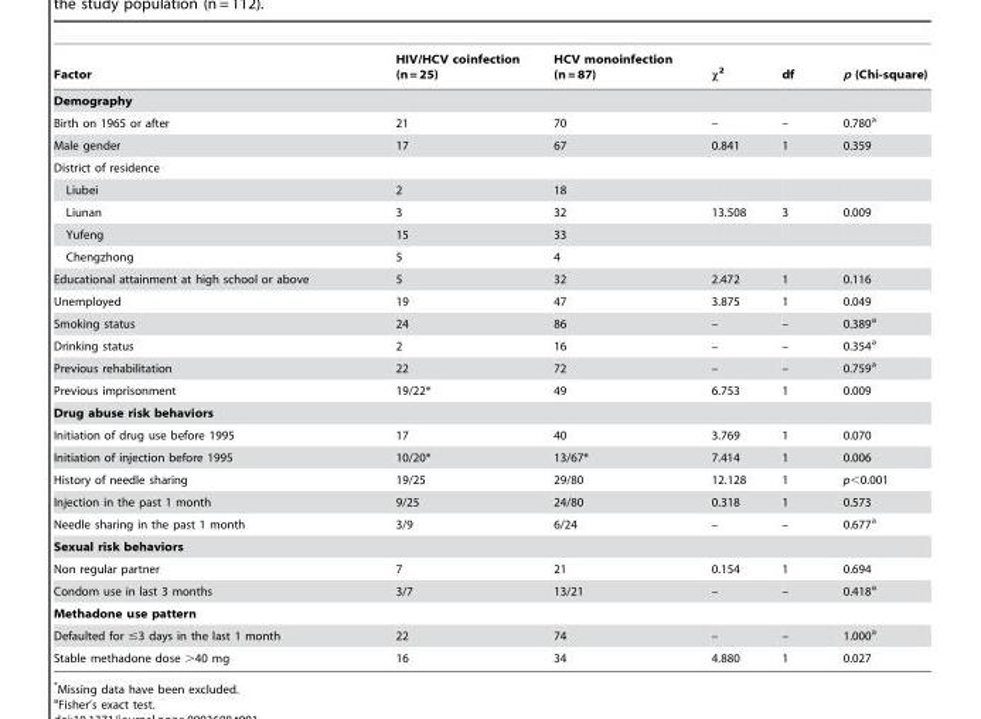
<table><thead><tr><td>Factor</td><td>HIV/HCV coinfection (n = 25)</td><td>HCV monoinfection (n = 87)</td><td>χ<sup>2</sup></td><td>df</td><td>p (Chi-square)</td></tr></thead><tbody><tr><td colspan="6">Demography</td></tr><tr><td>Birth on 1965 or after</td><td>21</td><td>70</td><td>–</td><td>–</td><td>0.780<sup>a</sup></td></tr><tr><td>Male gender</td><td>17</td><td>67</td><td>0.841</td><td>1</td><td>0.359</td></tr><tr><td colspan="6">District of residence</td></tr><tr><td>Liubei</td><td>2</td><td>18</td><td></td><td></td><td></td></tr><tr><td>Liunan</td><td>3</td><td>32</td><td>13.508</td><td>3</td><td>0.009</td></tr><tr><td>Yufeng</td><td>15</td><td>33</td><td></td><td></td><td></td></tr><tr><td>Chengzhong</td><td>5</td><td>4</td><td></td><td></td><td></td></tr><tr><td>Educational attainment at high school or above</td><td>5</td><td>32</td><td>2.472</td><td>1</td><td>0.116</td></tr><tr><td>Unemployed</td><td>19</td><td>47</td><td>3.875</td><td>1</td><td>0.049</td></tr><tr><td>Smoking status</td><td>24</td><td>86</td><td>–</td><td>–</td><td>0.389<sup>a</sup></td></tr><tr><td>Drinking status</td><td>2</td><td>16</td><td>–</td><td>–</td><td>0.354<sup>a</sup></td></tr><tr><td>Previous rehabilitation</td><td>22</td><td>72</td><td>–</td><td>–</td><td>0.759<sup>a</sup></td></tr><tr><td>Previous imprisonment</td><td>19/22*</td><td>49</td><td>6.753</td><td>1</td><td>0.009</td></tr><tr><td colspan="6">Drug abuse risk behaviors</td></tr><tr><td>Initiation of drug use before 1995</td><td>17</td><td>40</td><td>3.769</td><td>1</td><td>0.070</td></tr><tr><td>Initiation of injection before 1995</td><td>10/20*</td><td>13/67*</td><td>7.414</td><td>1</td><td>0.006</td></tr><tr><td>History of needle sharing</td><td>19/25</td><td>29/80</td><td>12.128</td><td>1</td><td>p&lt;0.001</td></tr><tr><td>Injection in the past 1 month</td><td>9/25</td><td>24/80</td><td>0.318</td><td>1</td><td>0.573</td></tr><tr><td>Needle sharing in the past 1 month</td><td>3/9</td><td>6/24</td><td>–</td><td>–</td><td>0.677<sup>a</sup></td></tr><tr><td colspan="6">Sexual risk behaviors</td></tr><tr><td>Non regular partner</td><td>7</td><td>21</td><td>0.154</td><td>1</td><td>0.694</td></tr><tr><td>Condom use in last 3 months</td><td>3/7</td><td>13/21</td><td>–</td><td>–</td><td>0.418<sup>a</sup></td></tr><tr><td colspan="6">Methadone use pattern</td></tr><tr><td>Defaulted for ≤3 days in the last 1 month</td><td>22</td><td>74</td><td>–</td><td>–</td><td>1.000<sup>a</sup></td></tr><tr><td>Stable methadone dose &gt;40 mg</td><td>16</td><td>34</td><td>4.880</td><td>1</td><td>0.027</td></tr></tbody></table>